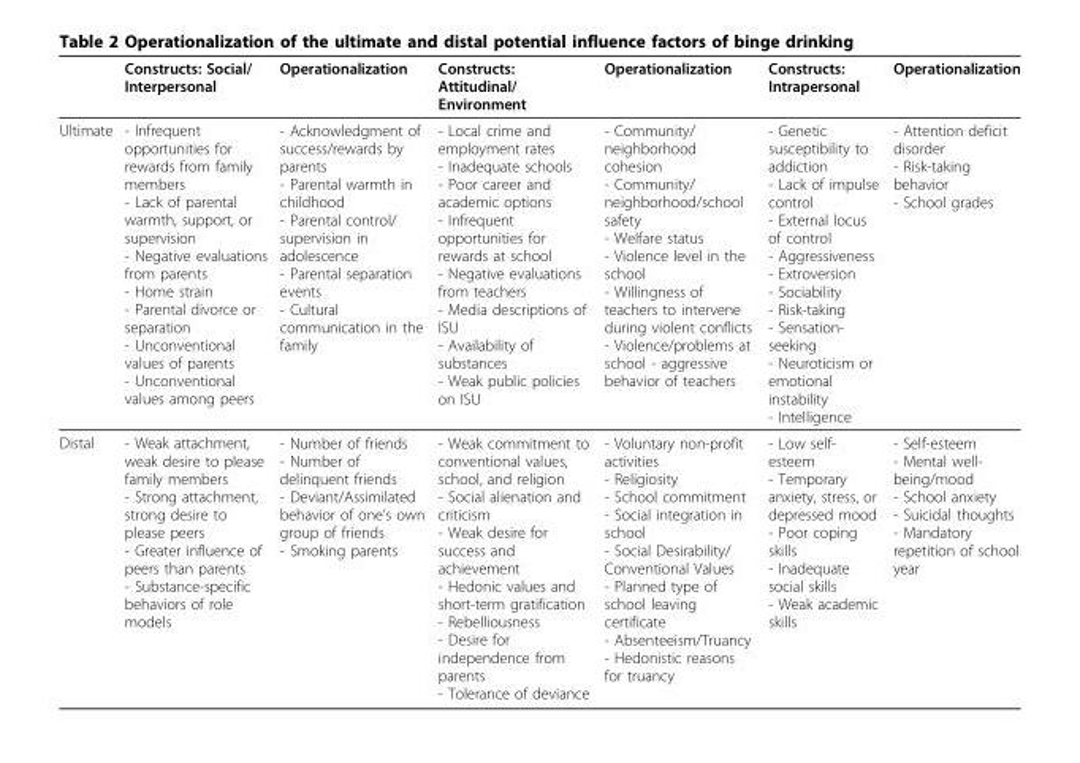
<table><thead><tr><td></td><td>Constructs: Social/ Interpersonal</td><td>Operationalization</td><td>Constructs: Attitudinal/ Environment</td><td>Operationalization</td><td>Constructs: Intrapersonal</td><td>Operationalization</td></tr></thead><tbody><tr><td>Ultimate</td><td>- Infrequent opportunities for rewards from family members - Lack of parental warmth, support, or supervision - Negative evaluations from parents - Home strain - Parental divorce or separation - Unconventional values of parents - Unconventional values among peers</td><td>- Acknowledgment of success/rewards by parents - Parental warmth in childhood - Parental control/ supervision in adolescence - Parental separation events - Cultural communication in the family</td><td>- Local crime and employment rates - Inadequate schools - Poor career and academic options - Infrequent opportunities for rewards at school - Negative evaluations from teachers - Media descriptions of ISU - Availability of substances - Weak public policies on ISU</td><td>- Community/ neighborhood cohesion - Community/ neighborhood/school safety - Welfare status - Violence level in the school - Willingness of teachers to intervene during violent conflicts - Violence/problems at school - aggressive behavior of teachers</td><td>- Genetic susceptibility to addiction - Lack of impulse control - External locus of control - Aggressiveness - Extroversion - Sociability - Risk-taking - Sensation- seeking - Neuroticism or emotional instability - Intelligence</td><td>- Attention deficit disorder - Risk-taking behavior - School grades</td></tr><tr><td>Distal</td><td>- Weak attachment, weak desire to please family members - Strong attachment, strong desire to please peers - Greater influence of peers than parents - Substance-specific behaviors of role models</td><td>- Number of friends - Number of delinquent friends - Deviant/Assimilated behavior of one’s own group of friends - Smoking parents</td><td>- Weak commitment to conventional values, school, and religion - Social alienation and criticism - Weak desire for success and achievement - Hedonic values and short-term gratification - Rebelliousness - Desire for independence from parents - Tolerance of deviance</td><td>- Voluntary non-profit activities - Religiosity - School commitment - Social integration in school - Social Desirability/ Conventional Values - Planned type of school leaving certificate - Absenteeism/Truancy - Hedonistic reasons for truancy</td><td>- Low self- esteem - Temporary anxiety, stress, or depressed mood - Poor coping skills - Inadequate social skills - Weak academic skills</td><td>- Self-esteem - Mental well- being/mood - School anxiety - Suicidal thoughts - Mandatory repetition of school year</td></tr></tbody></table>